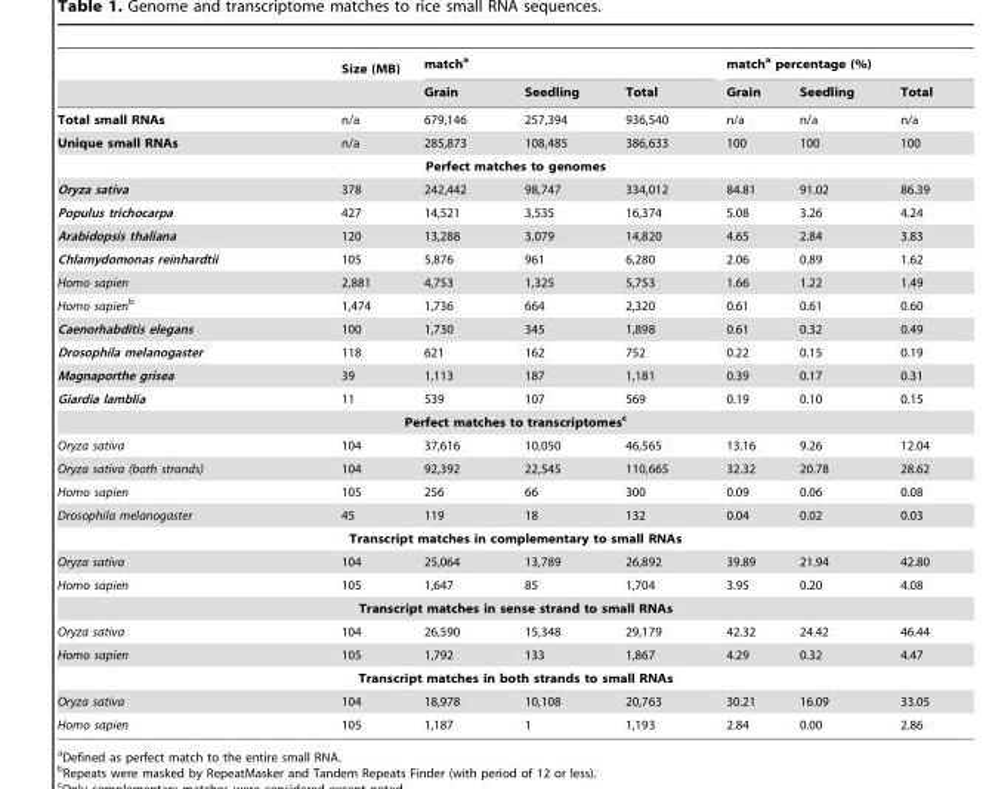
<table><thead><tr><td rowspan="2"></td><td rowspan="2">Size (MB)</td><td colspan="3">match<sup>a</sup></td><td colspan="3">match<sup>a</sup> percentage (%)</td></tr><tr><td>Grain</td><td>Seedling</td><td>Total</td><td>Grain</td><td>Seedling</td><td>Total</td></tr></thead><tbody><tr><td>Total small RNAs</td><td>n/a</td><td>679,146</td><td>257,394</td><td>936,540</td><td>n/a</td><td>n/a</td><td>n/a</td></tr><tr><td>Unique small RNAs</td><td>n/a</td><td>285,873</td><td>108,485</td><td>386,633</td><td>100</td><td>100</td><td>100</td></tr><tr><td colspan="8">Perfect matches to genomes</td></tr><tr><td>Oryza sativa</td><td>378</td><td>242,442</td><td>98,747</td><td>334,012</td><td>84.81</td><td>91.02</td><td>86.39</td></tr><tr><td>Populus trichocarpa</td><td>427</td><td>14,521</td><td>3,535</td><td>16,374</td><td>5.08</td><td>3.26</td><td>4.24</td></tr><tr><td>Arabidopsis thaliana</td><td>120</td><td>13,288</td><td>3,079</td><td>14,820</td><td>4.65</td><td>2.84</td><td>3.83</td></tr><tr><td>Chlamydomonas reinhardtii</td><td>105</td><td>5,876</td><td>961</td><td>6,280</td><td>2.06</td><td>0.89</td><td>1.62</td></tr><tr><td>Homo sapien</td><td>2,881</td><td>4,753</td><td>1,325</td><td>5,753</td><td>1.66</td><td>1.22</td><td>1.49</td></tr><tr><td>Homo sapienb</td><td>1,474</td><td>1,736</td><td>664</td><td>2,320</td><td>0.61</td><td>0.61</td><td>0.60</td></tr><tr><td>Caenorhabditis elegans</td><td>100</td><td>1,730</td><td>345</td><td>1,898</td><td>0.61</td><td>0.32</td><td>0.49</td></tr><tr><td>Drosophila melanogaster</td><td>118</td><td>621</td><td>162</td><td>752</td><td>0.22</td><td>0.15</td><td>0.19</td></tr><tr><td>Magnaporthe grisea</td><td>39</td><td>1,113</td><td>187</td><td>1,181</td><td>0.39</td><td>0.17</td><td>0.31</td></tr><tr><td>Giardia lamblia</td><td>11</td><td>539</td><td>107</td><td>569</td><td>0.19</td><td>0.10</td><td>0.15</td></tr><tr><td colspan="8">Perfect matches to transcriptomesc</td></tr><tr><td>Oryza sativa</td><td>104</td><td>37,616</td><td>10,050</td><td>46,565</td><td>13.16</td><td>9.26</td><td>12.04</td></tr><tr><td>Oryza sativa (both strands)</td><td>104</td><td>92,392</td><td>22,545</td><td>110,665</td><td>32.32</td><td>20.78</td><td>28.62</td></tr><tr><td>Homo sapien</td><td>105</td><td>256</td><td>66</td><td>300</td><td>0.09</td><td>0.06</td><td>0.08</td></tr><tr><td>Drosophila melanogaster</td><td>45</td><td>119</td><td>18</td><td>132</td><td>0.04</td><td>0.02</td><td>0.03</td></tr><tr><td colspan="8">Transcript matches in complementary to small RNAs</td></tr><tr><td>Oryza sativa</td><td>104</td><td>25,064</td><td>13,789</td><td>26,892</td><td>39.89</td><td>21.94</td><td>42.80</td></tr><tr><td>Homo sapien</td><td>105</td><td>1,647</td><td>85</td><td>1,704</td><td>3.95</td><td>0.20</td><td>4.08</td></tr><tr><td colspan="8">Transcript matches in sense strand to small RNAs</td></tr><tr><td>Oryza sativa</td><td>104</td><td>26,590</td><td>15,348</td><td>29,179</td><td>42.32</td><td>24.42</td><td>46.44</td></tr><tr><td>Homo sapien</td><td>105</td><td>1,792</td><td>133</td><td>1,867</td><td>4.29</td><td>0.32</td><td>4.47</td></tr><tr><td colspan="8">Transcript matches in both strands to small RNAs</td></tr><tr><td>Oryza sativa</td><td>104</td><td>18,978</td><td>10,108</td><td>20,763</td><td>30.21</td><td>16.09</td><td>33.05</td></tr><tr><td>Homo sapien</td><td>105</td><td>1,187</td><td>1</td><td>1,193</td><td>2.84</td><td>0.00</td><td>2.86</td></tr></tbody></table>